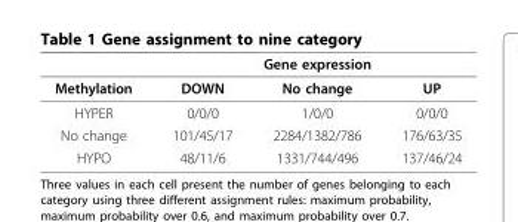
<table><thead><tr><td rowspan="2">Methylation</td><td colspan="3">Gene expression</td></tr><tr><td>DOWN</td><td>No change</td><td>UP</td></tr></thead><tbody><tr><td>HYPER</td><td>0/0/0</td><td>1/0/0</td><td>0/0/0</td></tr><tr><td>No change</td><td>101/45/17</td><td>2284/1382/786</td><td>176/63/35</td></tr><tr><td>HYPO</td><td>48/11/6</td><td>1331/744/496</td><td>137/46/24</td></tr></tbody></table>